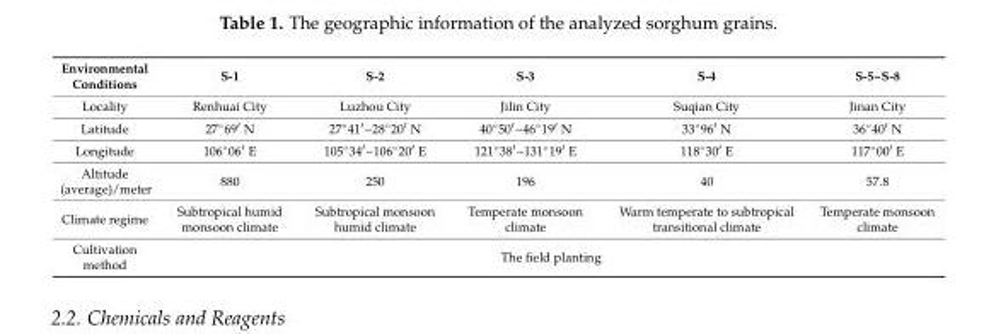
<table><thead><tr><td>Environmental Conditions</td><td>S-1</td><td>S-2</td><td>S-3</td><td>S-4</td><td>S-5~S-8</td></tr></thead><tbody><tr><td>Locality</td><td>Renhuai City</td><td>Luzhou City</td><td>Jilin City</td><td>Suqian City</td><td>Jinan City</td></tr><tr><td>Latitude</td><td>27◦69′ N</td><td>27◦41′~28◦20′ N</td><td>40◦50′~46◦19′ N</td><td>33◦96′ N</td><td>36◦40′ N</td></tr><tr><td>Longitude</td><td>106◦06′ E</td><td>105◦34′~106◦20′ E</td><td>121◦38′~131◦19′ E</td><td>118◦30′ E</td><td>117◦00′ E</td></tr><tr><td>Altitude (average)/meter</td><td>880</td><td>250</td><td>196</td><td>40</td><td>57.8</td></tr><tr><td>Climate regime</td><td>Subtropical humid monsoon climate</td><td>Subtropical monsoon humid climate</td><td>Temperate monsoon climate</td><td>Warm temperate to subtropical transitional climate</td><td>Temperate monsoon climate</td></tr><tr><td>Cultivation method</td><td colspan="5">The field planting</td></tr></tbody></table>